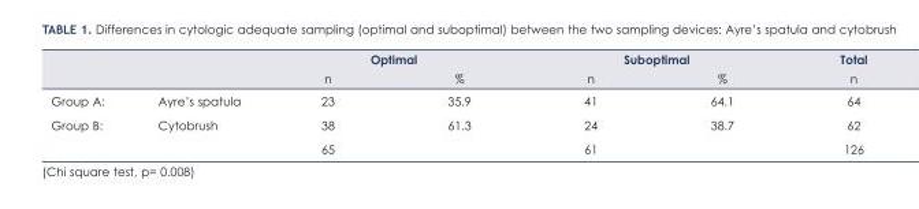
<table><thead><tr><td rowspan="2"></td><td rowspan="2"></td><td colspan="2">Optimal</td><td colspan="2">Suboptimal</td><td rowspan="2">Total n</td></tr><tr><td>n</td><td>%</td><td>n</td><td>%</td></tr></thead><tbody><tr><td>Group A:</td><td>Ayre’s spatula</td><td>23</td><td>35.9</td><td>41</td><td>64.1</td><td>64</td></tr><tr><td rowspan="2">Group B:</td><td>Cytobrush</td><td>38</td><td>61.3</td><td>24</td><td>38.7</td><td>62</td></tr><tr><td></td><td>65</td><td></td><td>61</td><td></td><td>126</td></tr></tbody></table>